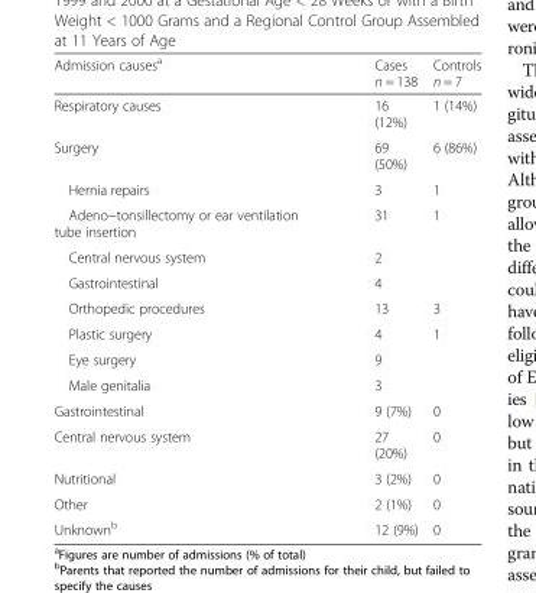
<table><thead><tr><td>Admission causes<sup>a</sup></td><td>Cases n = 138</td><td>Controls n = 7</td></tr></thead><tbody><tr><td>Respiratory causes</td><td>16 (12%)</td><td>1 (14%)</td></tr><tr><td>Surgery</td><td>69 (50%)</td><td>6 (86%)</td></tr><tr><td>Hernia repairs</td><td>3</td><td>1</td></tr><tr><td>Adeno−tonsillectomy or ear ventilation tube insertion</td><td>31</td><td>1</td></tr><tr><td>Central nervous system</td><td>2</td><td></td></tr><tr><td>Gastrointestinal</td><td>4</td><td></td></tr><tr><td>Orthopedic procedures</td><td>13</td><td>3</td></tr><tr><td>Plastic surgery</td><td>4</td><td>1</td></tr><tr><td>Eye surgery</td><td>9</td><td></td></tr><tr><td>Male genitalia</td><td>3</td><td></td></tr><tr><td>Gastrointestinal</td><td>9 (7%)</td><td>0</td></tr><tr><td>Central nervous system</td><td>27 (20%)</td><td>0</td></tr><tr><td>Nutritional</td><td>3 (2%)</td><td>0</td></tr><tr><td>Other</td><td>2 (1%)</td><td>0</td></tr><tr><td>Unknown<sup>b</sup></td><td>12 (9%)</td><td>0</td></tr></tbody></table>